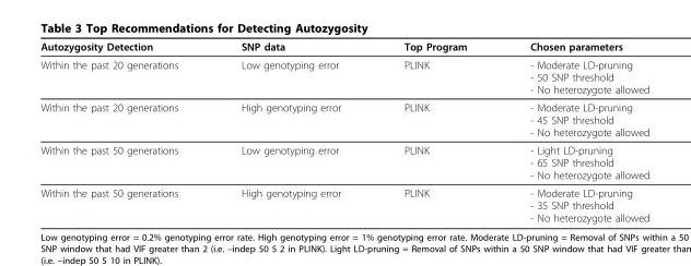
<table><thead><tr><td>Autozygosity Detection</td><td>SNP data</td><td>Top Program</td><td>Chosen parameters</td></tr></thead><tbody><tr><td>Within the past 20 generations</td><td>Low genotyping error</td><td>PLINK</td><td>- Moderate LD-pruning - 50 SNP threshold - No heterozygote allowed</td></tr><tr><td>Within the past 20 generations</td><td>High genotyping error</td><td>PLINK</td><td>- Moderate LD-pruning - 45 SNP threshold - No heterozygote allowed</td></tr><tr><td>Within the past 50 generations</td><td>Low genotyping error</td><td>PLINK</td><td>- Light LD-pruning - 65 SNP threshold - No heterozygote allowed</td></tr><tr><td>Within the past 50 generations</td><td>High genotyping error</td><td>PLINK</td><td>- Moderate LD-pruning - 35 SNP threshold - No heterozygote allowed</td></tr></tbody></table>